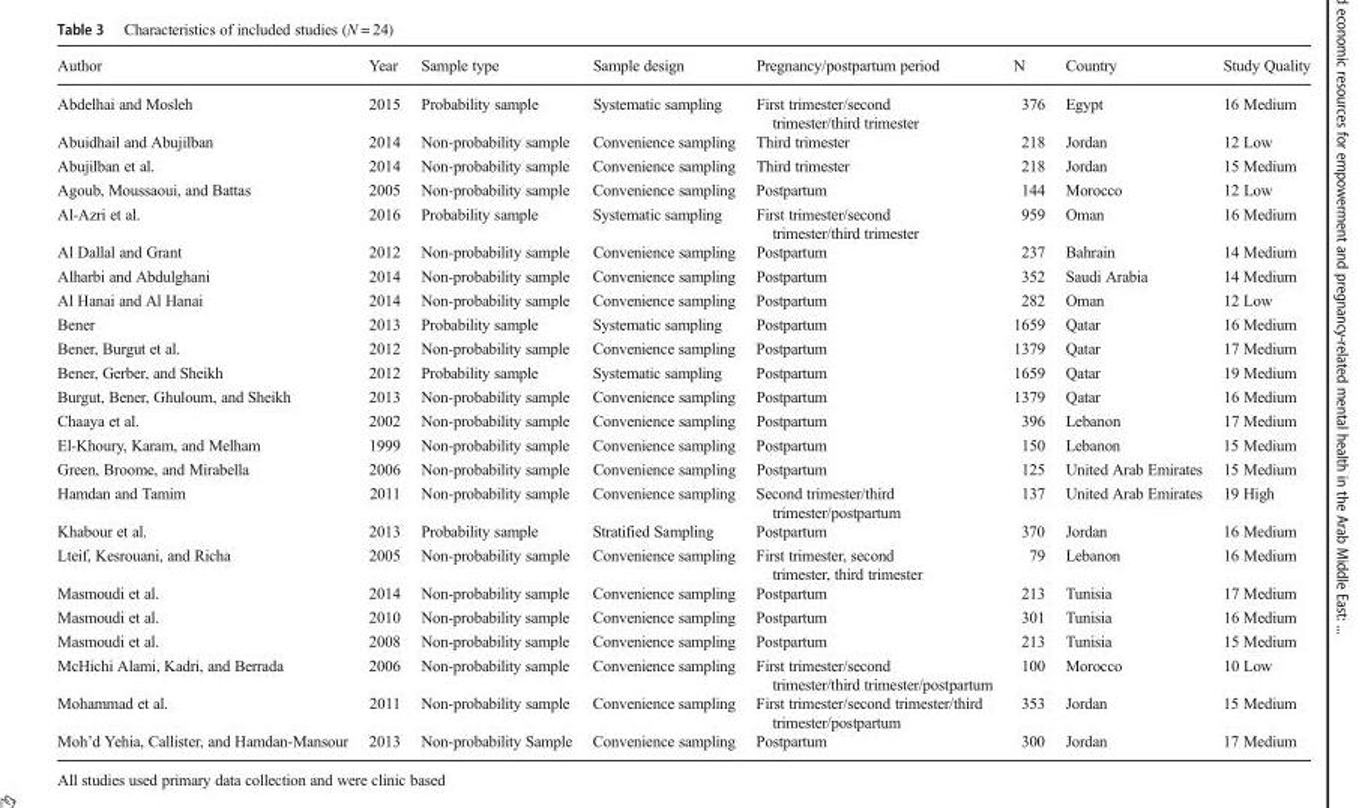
<table><thead><tr><td>Author</td><td>Year</td><td>Sample type</td><td>Sample design</td><td>Pregnancy/postpartum period</td><td>N</td><td>Country</td><td>Study Quality</td></tr></thead><tbody><tr><td>Abdelhai and Mosleh</td><td>2015</td><td>Probability sample</td><td>Systematic sampling</td><td>First trimester/second trimester/third trimester</td><td>376</td><td>Egypt</td><td>16 Medium</td></tr><tr><td>Abuidhail and Abujilban</td><td>2014</td><td>Non-probability sample</td><td>Convenience sampling</td><td>Third trimester</td><td>218</td><td>Jordan</td><td>12 Low</td></tr><tr><td>Abujilban et al.</td><td>2014</td><td>Non-probability sample</td><td>Convenience sampling</td><td>Third trimester</td><td>218</td><td>Jordan</td><td>15 Medium</td></tr><tr><td>Agoub, Moussaoui, and Battas</td><td>2005</td><td>Non-probability sample</td><td>Convenience sampling</td><td>Postpartum</td><td>144</td><td>Morocco</td><td>12 Low</td></tr><tr><td>Al-Azri et al.</td><td>2016</td><td>Probability sample</td><td>Systematic sampling</td><td>First trimester/second trimester/third trimester</td><td>959</td><td>Oman</td><td>16 Medium</td></tr><tr><td>Al Dallal and Grant</td><td>2012</td><td>Non-probability sample</td><td>Convenience sampling</td><td>Postpartum</td><td>237</td><td>Bahrain</td><td>14 Medium</td></tr><tr><td>Alharbi and Abdulghani</td><td>2014</td><td>Non-probability sample</td><td>Convenience sampling</td><td>Postpartum</td><td>352</td><td>Saudi Arabia</td><td>14 Medium</td></tr><tr><td>Al Hanai and Al Hanai</td><td>2014</td><td>Non-probability sample</td><td>Convenience sampling</td><td>Postpartum</td><td>282</td><td>Oman</td><td>12 Low</td></tr><tr><td>Bener</td><td>2013</td><td>Probability sample</td><td>Systematic sampling</td><td>Postpartum</td><td>1659</td><td>Qatar</td><td>16 Medium</td></tr><tr><td>Bener, Burgut et al.</td><td>2012</td><td>Non-probability sample</td><td>Convenience sampling</td><td>Postpartum</td><td>1379</td><td>Qatar</td><td>17 Medium</td></tr><tr><td>Bener, Gerber, and Sheikh</td><td>2012</td><td>Probability sample</td><td>Systematic sampling</td><td>Postpartum</td><td>1659</td><td>Qatar</td><td>19 Medium</td></tr><tr><td>Burgut, Bener, Ghuloum, and Sheikh</td><td>2013</td><td>Non-probability sample</td><td>Convenience sampling</td><td>Postpartum</td><td>1379</td><td>Qatar</td><td>16 Medium</td></tr><tr><td>Chaaya et al.</td><td>2002</td><td>Non-probability sample</td><td>Convenience sampling</td><td>Postpartum</td><td>396</td><td>Lebanon</td><td>17 Medium</td></tr><tr><td>El-Khoury, Karam, and Melham</td><td>1999</td><td>Non-probability sample</td><td>Convenience sampling</td><td>Postpartum</td><td>150</td><td>Lebanon</td><td>15 Medium</td></tr><tr><td>Green, Broome, and Mirabella</td><td>2006</td><td>Non-probability sample</td><td>Convenience sampling</td><td>Postpartum</td><td>125</td><td>United Arab Emirates</td><td>15 Medium</td></tr><tr><td>Hamdan and Tamim</td><td>2011</td><td>Non-probability sample</td><td>Convenience sampling</td><td>Second trimester/third trimester/postpartum</td><td>137</td><td>United Arab Emirates</td><td>19 High</td></tr><tr><td>Khabour et al.</td><td>2013</td><td>Probability sample</td><td>Stratified Sampling</td><td>Postpartum</td><td>370</td><td>Jordan</td><td>16 Medium</td></tr><tr><td>Lteif, Kesrouani, and Richa</td><td>2005</td><td>Non-probability sample</td><td>Convenience sampling</td><td>First trimester, second trimester, third trimester</td><td>79</td><td>Lebanon</td><td>16 Medium</td></tr><tr><td>Masmoudi et al.</td><td>2014</td><td>Non-probability sample</td><td>Convenience sampling</td><td>Postpartum</td><td>213</td><td>Tunisia</td><td>17 Medium</td></tr><tr><td>Masmoudi et al.</td><td>2010</td><td>Non-probability sample</td><td>Convenience sampling</td><td>Postpartum</td><td>301</td><td>Tunisia</td><td>16 Medium</td></tr><tr><td>Masmoudi et al.</td><td>2008</td><td>Non-probability sample</td><td>Convenience sampling</td><td>Postpartum</td><td>213</td><td>Tunisia</td><td>15 Medium</td></tr><tr><td>McHichi Alami, Kadri, and Berrada</td><td>2006</td><td>Non-probability sample</td><td>Convenience sampling</td><td>First trimester/second trimester/third trimester/postpartum</td><td>100</td><td>Morocco</td><td>10 Low</td></tr><tr><td>Mohammad et al.</td><td>2011</td><td>Non-probability sample</td><td>Convenience sampling</td><td>First trimester/second trimester/third trimester/postpartum</td><td>353</td><td>Jordan</td><td>15 Medium</td></tr><tr><td>Moh’d Yehia, Callister, and Hamdan-Mansour</td><td>2013</td><td>Non-probability Sample</td><td>Convenience sampling</td><td>Postpartum</td><td>300</td><td>Jordan</td><td>17 Medium</td></tr></tbody></table>